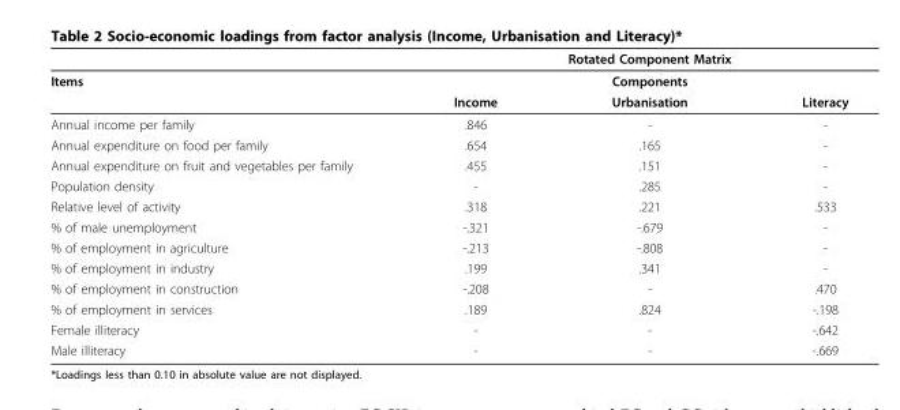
<table><thead><tr><td></td><td></td><td>Rotated Component Matrix</td><td></td></tr></thead><tbody><tr><td rowspan="2">Items</td><td></td><td>Components</td><td></td></tr><tr><td>Income</td><td>Urbanisation</td><td>Literacy</td></tr><tr><td>Annual income per family</td><td>.846</td><td>-</td><td>-</td></tr><tr><td>Annual expenditure on food per family</td><td>.654</td><td>.165</td><td>-</td></tr><tr><td>Annual expenditure on fruit and vegetables per family</td><td>.455</td><td>.151</td><td>-</td></tr><tr><td>Population density</td><td>-</td><td>.285</td><td>-</td></tr><tr><td>Relative level of activity</td><td>.318</td><td>.221</td><td>.533</td></tr><tr><td>% of male unemployment</td><td>-.321</td><td>-.679</td><td>-</td></tr><tr><td>% of employment in agriculture</td><td>-.213</td><td>-.808</td><td>-</td></tr><tr><td>% of employment in industry</td><td>.199</td><td>.341</td><td>-</td></tr><tr><td>% of employment in construction</td><td>-.208</td><td>-</td><td>.470</td></tr><tr><td>% of employment in services</td><td>.189</td><td>.824</td><td>-.198</td></tr><tr><td>Female illiteracy</td><td>-</td><td>-</td><td>-.642</td></tr><tr><td>Male illiteracy</td><td>-</td><td>-</td><td>-.669</td></tr></tbody></table>